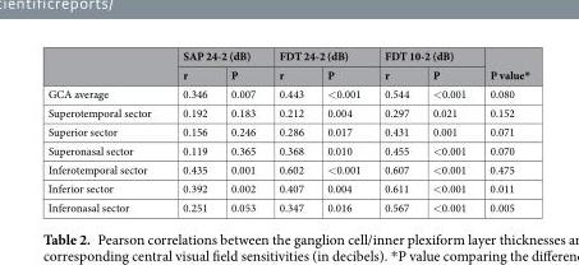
<table><thead><tr><td rowspan="2"></td><td colspan="2">SAP 24-2 (dB)</td><td colspan="2">FDT 24-2 (dB)</td><td colspan="2">FDT 10-2 (dB)</td><td rowspan="2">P value*</td></tr><tr><td>r</td><td>P</td><td>r</td><td>P</td><td>r</td><td>P</td></tr></thead><tbody><tr><td>GCA average</td><td>0.346</td><td>0.007</td><td>0.443</td><td>&lt;0.001</td><td>0.544</td><td>&lt;0.001</td><td>0.080</td></tr><tr><td>Superotemporal sector</td><td>0.192</td><td>0.183</td><td>0.212</td><td>0.004</td><td>0.297</td><td>0.021</td><td>0.152</td></tr><tr><td>Superior sector</td><td>0.156</td><td>0.246</td><td>0.286</td><td>0.017</td><td>0.431</td><td>0.001</td><td>0.071</td></tr><tr><td>Superonasal sector</td><td>0.119</td><td>0.365</td><td>0.368</td><td>0.010</td><td>0.455</td><td>&lt;0.001</td><td>0.070</td></tr><tr><td>Inferotemporal sector</td><td>0.435</td><td>0.001</td><td>0.602</td><td>&lt;0.001</td><td>0.607</td><td>&lt;0.001</td><td>0.475</td></tr><tr><td>Inferior sector</td><td>0.392</td><td>0.002</td><td>0.407</td><td>0.004</td><td>0.611</td><td>&lt;0.001</td><td>0.011</td></tr><tr><td>Inferonasal sector</td><td>0.251</td><td>0.053</td><td>0.347</td><td>0.016</td><td>0.567</td><td>&lt;0.001</td><td>0.005</td></tr></tbody></table>